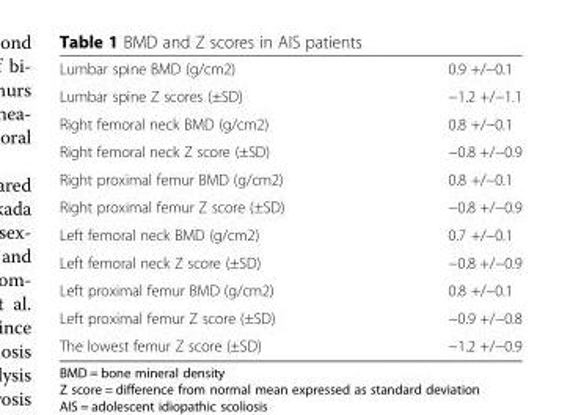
<table><tbody><tr><td>Lumbar spine BMD (g/cm2)</td><td>0.9 +/−0.1</td></tr><tr><td>Lumbar spine Z scores (±SD)</td><td>−1.2 +/−1.1</td></tr><tr><td>Right femoral neck BMD (g/cm2)</td><td>0.8 +/−0.1</td></tr><tr><td>Right femoral neck Z score (±SD)</td><td>−0.8 +/−0.9</td></tr><tr><td>Right proximal femur BMD (g/cm2)</td><td>0.8 +/−0.1</td></tr><tr><td>Right proximal femur Z score (±SD)</td><td>−0.8 +/−0.9</td></tr><tr><td>Left femoral neck BMD (g/cm2)</td><td>0.7 +/−0.1</td></tr><tr><td>Left femoral neck Z score (±SD)</td><td>−0.8 +/−0.9</td></tr><tr><td>Left proximal femur BMD (g/cm2)</td><td>0.8 +/−0.1</td></tr><tr><td>Left proximal femur Z score (±SD)</td><td>−0.9 +/−0.8</td></tr><tr><td>The lowest femur Z score (±SD)</td><td>−1.2 +/−0.9</td></tr></tbody></table>